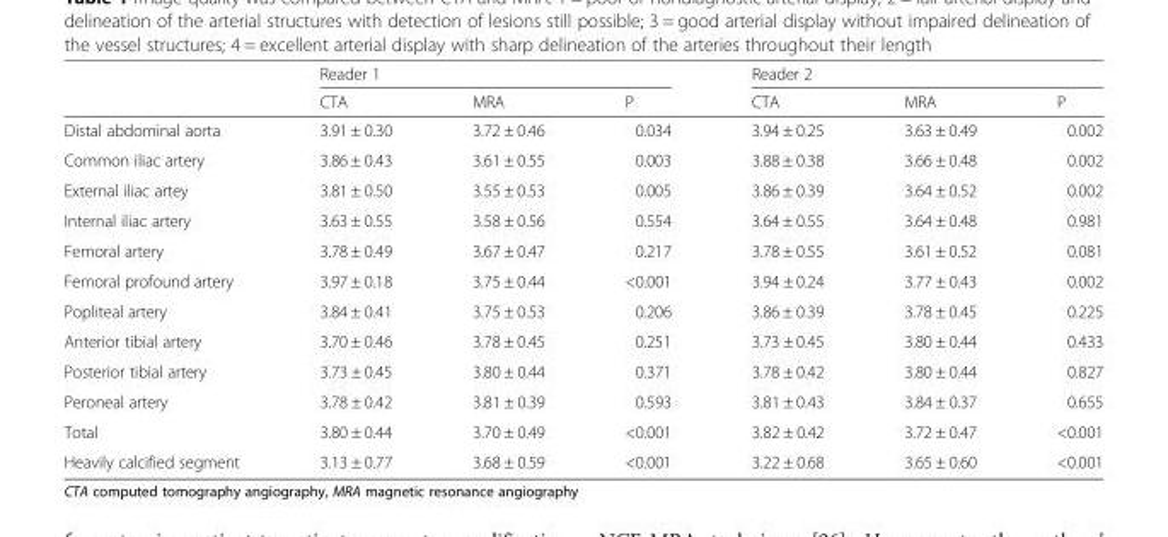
<table><thead><tr><td rowspan="2"></td><td colspan="3">Reader 1</td><td colspan="3">Reader 2</td></tr><tr><td>CTA</td><td>MRA</td><td>P</td><td>CTA</td><td>MRA</td><td>P</td></tr></thead><tbody><tr><td>Distal abdominal aorta</td><td>3.91 ± 0.30</td><td>3.72 ± 0.46</td><td>0.034</td><td>3.94 ± 0.25</td><td>3.63 ± 0.49</td><td>0.002</td></tr><tr><td>Common iliac artery</td><td>3.86 ± 0.43</td><td>3.61 ± 0.55</td><td>0.003</td><td>3.88 ± 0.38</td><td>3.66 ± 0.48</td><td>0.002</td></tr><tr><td>External iliac artey</td><td>3.81 ± 0.50</td><td>3.55 ± 0.53</td><td>0.005</td><td>3.86 ± 0.39</td><td>3.64 ± 0.52</td><td>0.002</td></tr><tr><td>Internal iliac artery</td><td>3.63 ± 0.55</td><td>3.58 ± 0.56</td><td>0.554</td><td>3.64 ± 0.55</td><td>3.64 ± 0.48</td><td>0.981</td></tr><tr><td>Femoral artery</td><td>3.78 ± 0.49</td><td>3.67 ± 0.47</td><td>0.217</td><td>3.78 ± 0.55</td><td>3.61 ± 0.52</td><td>0.081</td></tr><tr><td>Femoral profound artery</td><td>3.97 ± 0.18</td><td>3.75 ± 0.44</td><td>&lt;0.001</td><td>3.94 ± 0.24</td><td>3.77 ± 0.43</td><td>0.002</td></tr><tr><td>Popliteal artery</td><td>3.84 ± 0.41</td><td>3.75 ± 0.53</td><td>0.206</td><td>3.86 ± 0.39</td><td>3.78 ± 0.45</td><td>0.225</td></tr><tr><td>Anterior tibial artery</td><td>3.70 ± 0.46</td><td>3.78 ± 0.45</td><td>0.251</td><td>3.73 ± 0.45</td><td>3.80 ± 0.44</td><td>0.433</td></tr><tr><td>Posterior tibial artery</td><td>3.73 ± 0.45</td><td>3.80 ± 0.44</td><td>0.371</td><td>3.78 ± 0.42</td><td>3.80 ± 0.44</td><td>0.827</td></tr><tr><td>Peroneal artery</td><td>3.78 ± 0.42</td><td>3.81 ± 0.39</td><td>0.593</td><td>3.81 ± 0.43</td><td>3.84 ± 0.37</td><td>0.655</td></tr><tr><td>Total</td><td>3.80 ± 0.44</td><td>3.70 ± 0.49</td><td>&lt;0.001</td><td>3.82 ± 0.42</td><td>3.72 ± 0.47</td><td>&lt;0.001</td></tr><tr><td>Heavily calcified segment</td><td>3.13 ± 0.77</td><td>3.68 ± 0.59</td><td>&lt;0.001</td><td>3.22 ± 0.68</td><td>3.65 ± 0.60</td><td>&lt;0.001</td></tr></tbody></table>